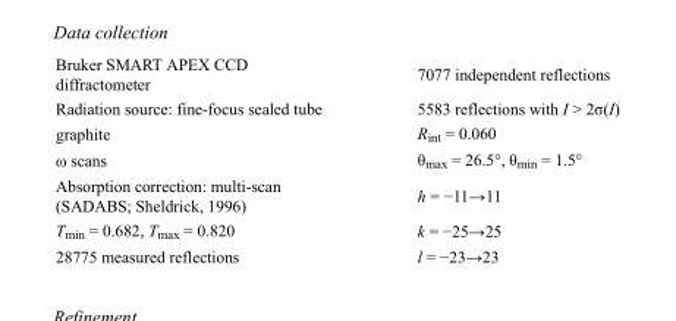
<table><tbody><tr><td>Bruker SMART APEX CCD diffractometer</td><td>7077 independent reflections</td></tr><tr><td>Radiation source: fine-focus sealed tube</td><td>5583 reflections with I &gt; 2σ(I)</td></tr><tr><td>graphite</td><td>R<sub>int</sub> = 0.060</td></tr><tr><td>ω scans</td><td>θ<sub>max</sub> = 26.5°, θ<sub>min</sub> = 1.5°</td></tr><tr><td>Absorption correction: multi-scan (SADABS; Sheldrick, 1996)</td><td>h = −11→11</td></tr><tr><td>T<sub>min</sub> = 0.682, T<sub>max</sub> = 0.820</td><td>k = −25→25</td></tr><tr><td>28775 measured reflections</td><td>l = −23→23</td></tr></tbody></table>